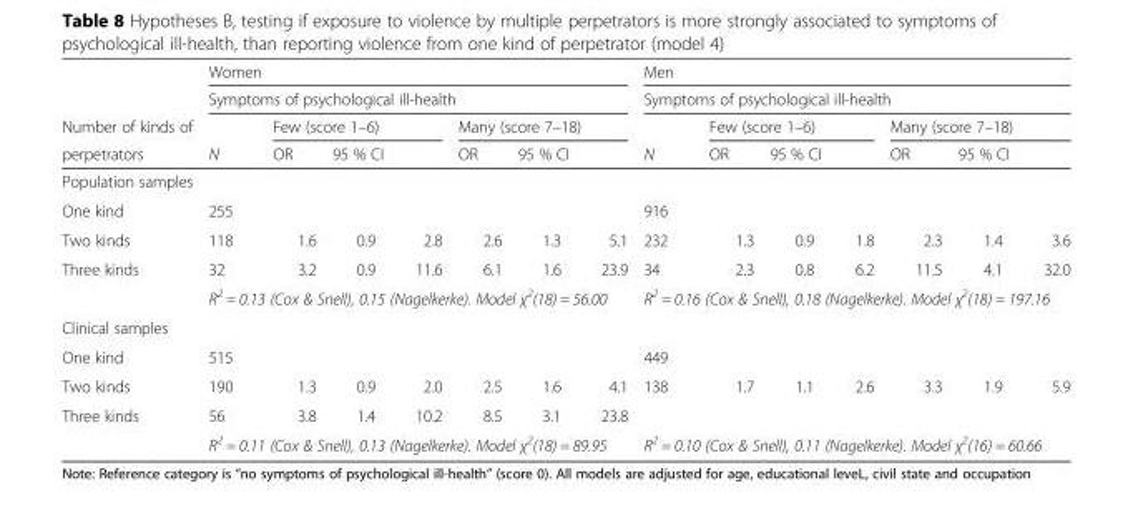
<table><thead><tr><td rowspan="4">Number of kinds of perpetrators</td><td rowspan="2" colspan="7">Women Symptoms of psychological ill-health</td><td rowspan="2" colspan="7">Men Symptoms of psychological ill-health</td></tr><tr></tr><tr><td rowspan="2">N</td><td colspan="3">Few (score 1–6)</td><td colspan="3">Many (score 7–18)</td><td rowspan="2">N</td><td colspan="3">Few (score 1–6)</td><td colspan="3">Many (score 7–18)</td></tr><tr><td>OR</td><td colspan="2">95 % CI</td><td>OR</td><td colspan="2">95 % CI</td><td>OR</td><td colspan="2">95 % CI</td><td>OR</td><td colspan="2">95 % CI</td></tr><tr><td colspan="15">Population samples</td></tr><tr><td>One kind</td><td>255</td><td></td><td></td><td></td><td></td><td></td><td></td><td>916</td><td></td><td></td><td></td><td></td><td></td><td></td></tr></thead><tbody><tr><td>Two kinds</td><td>118</td><td>1.6</td><td>0.9</td><td>2.8</td><td>2.6</td><td>1.3</td><td>5.1</td><td>232</td><td>1.3</td><td>0.9</td><td>1.8</td><td>2.3</td><td>1.4</td><td>3.6</td></tr><tr><td rowspan="2">Three kinds</td><td>32</td><td>3.2</td><td>0.9</td><td>11.6</td><td>6.1</td><td>1.6</td><td>23.9</td><td>34</td><td>2.3</td><td>0.8</td><td>6.2</td><td>11.5</td><td>4.1</td><td>32.0</td></tr><tr><td colspan="7">R<sup>2</sup> = 0.13 (Cox &amp; Snell), 0.15 (Nagelkerke). Model χ<sup>2</sup>(18) = 56.00</td><td colspan="7">R<sup>2</sup> = 0.16 (Cox &amp; Snell), 0.18 (Nagelkerke). Model χ<sup>2</sup>(18) = 197.16</td></tr><tr><td colspan="15">Clinical samples</td></tr><tr><td>One kind</td><td>515</td><td></td><td></td><td></td><td></td><td></td><td></td><td>449</td><td></td><td></td><td></td><td></td><td></td><td></td></tr><tr><td>Two kinds</td><td>190</td><td>1.3</td><td>0.9</td><td>2.0</td><td>2.5</td><td>1.6</td><td>4.1</td><td>138</td><td>1.7</td><td>1.1</td><td>2.6</td><td>3.3</td><td>1.9</td><td>5.9</td></tr><tr><td rowspan="2">Three kinds</td><td>56</td><td>3.8</td><td>1.4</td><td>10.2</td><td>8.5</td><td>3.1</td><td>23.8</td><td></td><td></td><td></td><td></td><td></td><td></td><td></td></tr><tr><td colspan="7">R<sup>2</sup> = 0.11 (Cox &amp; Snell), 0.13 (Nagelkerke). Model χ<sup>2</sup>(18) = 89.95</td><td colspan="7">R<sup>2</sup> = 0.10 (Cox &amp; Snell), 0.11 (Nagelkerke). Model χ<sup>2</sup>(16) = 60.66</td></tr></tbody></table>